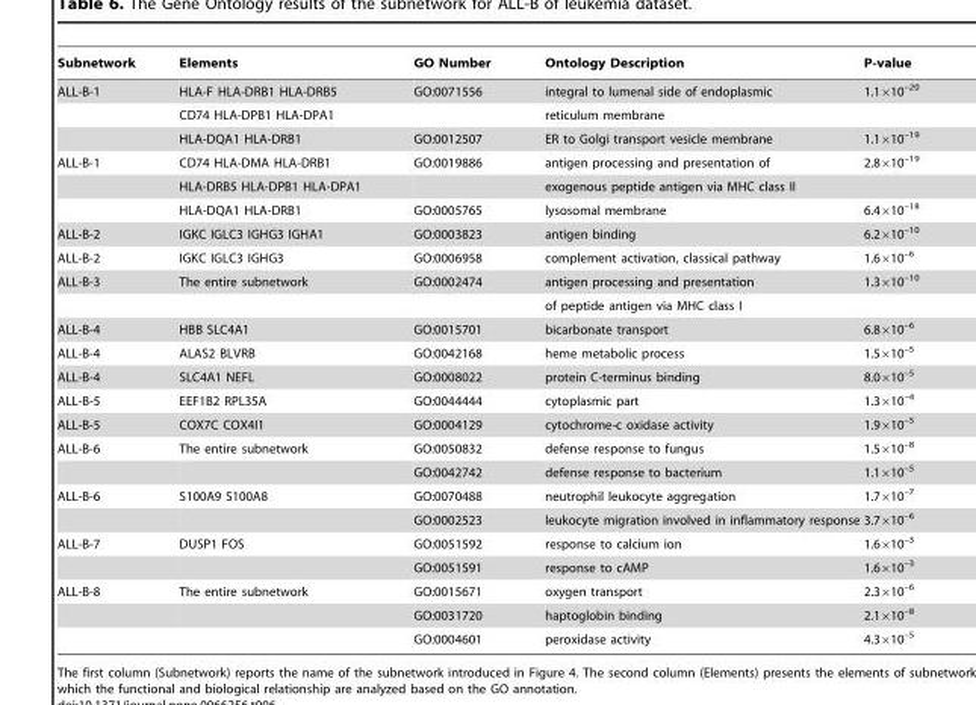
<table><thead><tr><td>Subnetwork</td><td>Elements</td><td>GO Number</td><td>Ontology Description</td><td>P-value</td></tr></thead><tbody><tr><td rowspan="3">ALL-B-1</td><td>HLA-F HLA-DRB1 HLA-DRB5</td><td>GO:0071556</td><td>integral to lumenal side of endoplasmic</td><td>1.1×10<sup>–20</sup></td></tr><tr><td>CD74 HLA-DPB1 HLA-DPA1</td><td></td><td>reticulum membrane</td><td></td></tr><tr><td>HLA-DQA1 HLA-DRB1</td><td>GO:0012507</td><td>ER to Golgi transport vesicle membrane</td><td>1.1×10<sup>–19</sup></td></tr><tr><td rowspan="3">ALL-B-1</td><td>CD74 HLA-DMA HLA-DRB1</td><td>GO:0019886</td><td>antigen processing and presentation of</td><td>2.8×10<sup>–19</sup></td></tr><tr><td>HLA-DRB5 HLA-DPB1 HLA-DPA1</td><td></td><td>exogenous peptide antigen via MHC class II</td><td></td></tr><tr><td>HLA-DQA1 HLA-DRB1</td><td>GO:0005765</td><td>lysosomal membrane</td><td>6.4×10<sup>–18</sup></td></tr><tr><td>ALL-B-2</td><td>IGKC IGLC3 IGHG3 IGHA1</td><td>GO:0003823</td><td>antigen binding</td><td>6.2×10<sup>–10</sup></td></tr><tr><td>ALL-B-2</td><td>IGKC IGLC3 IGHG3</td><td>GO:0006958</td><td>complement activation, classical pathway</td><td>1.6×10<sup>–6</sup></td></tr><tr><td rowspan="2">ALL-B-3</td><td>The entire subnetwork</td><td>GO:0002474</td><td>antigen processing and presentation</td><td>1.3×10<sup>–10</sup></td></tr><tr><td></td><td></td><td>of peptide antigen via MHC class I</td><td></td></tr><tr><td>ALL-B-4</td><td>HBB SLC4A1</td><td>GO:0015701</td><td>bicarbonate transport</td><td>6.8×10<sup>–6</sup></td></tr><tr><td>ALL-B-4</td><td>ALAS2 BLVRB</td><td>GO:0042168</td><td>heme metabolic process</td><td>1.5×10<sup>–5</sup></td></tr><tr><td>ALL-B-4</td><td>SLC4A1 NEFL</td><td>GO:0008022</td><td>protein C-terminus binding</td><td>8.0×10<sup>–5</sup></td></tr><tr><td>ALL-B-5</td><td>EEF1B2 RPL35A</td><td>GO:0044444</td><td>cytoplasmic part</td><td>1.3×10<sup>–4</sup></td></tr><tr><td>ALL-B-5</td><td>COX7C COX4I1</td><td>GO:0004129</td><td>cytochrome-c oxidase activity</td><td>1.9×10<sup>–5</sup></td></tr><tr><td rowspan="2">ALL-B-6</td><td>The entire subnetwork</td><td>GO:0050832</td><td>defense response to fungus</td><td>1.5×10<sup>–8</sup></td></tr><tr><td></td><td>GO:0042742</td><td>defense response to bacterium</td><td>1.1×10<sup>–5</sup></td></tr><tr><td rowspan="2">ALL-B-6</td><td>S100A9 S100A8</td><td>GO:0070488</td><td>neutrophil leukocyte aggregation</td><td>1.7×10<sup>–7</sup></td></tr><tr><td></td><td>GO:0002523</td><td>leukocyte migration involved in inflammatory response</td><td>3.7×10<sup>–6</sup></td></tr><tr><td rowspan="2">ALL-B-7</td><td>DUSP1 FOS</td><td>GO:0051592</td><td>response to calcium ion</td><td>1.6×10<sup>–3</sup></td></tr><tr><td></td><td>GO:0051591</td><td>response to cAMP</td><td>1.6×10<sup>–3</sup></td></tr><tr><td rowspan="3">ALL-B-8</td><td>The entire subnetwork</td><td>GO:0015671</td><td>oxygen transport</td><td>2.3×10<sup>–6</sup></td></tr><tr><td></td><td>GO:0031720</td><td>haptoglobin binding</td><td>2.1×10<sup>–8</sup></td></tr><tr><td></td><td>GO:0004601</td><td>peroxidase activity</td><td>4.3×10<sup>–5</sup></td></tr></tbody></table>